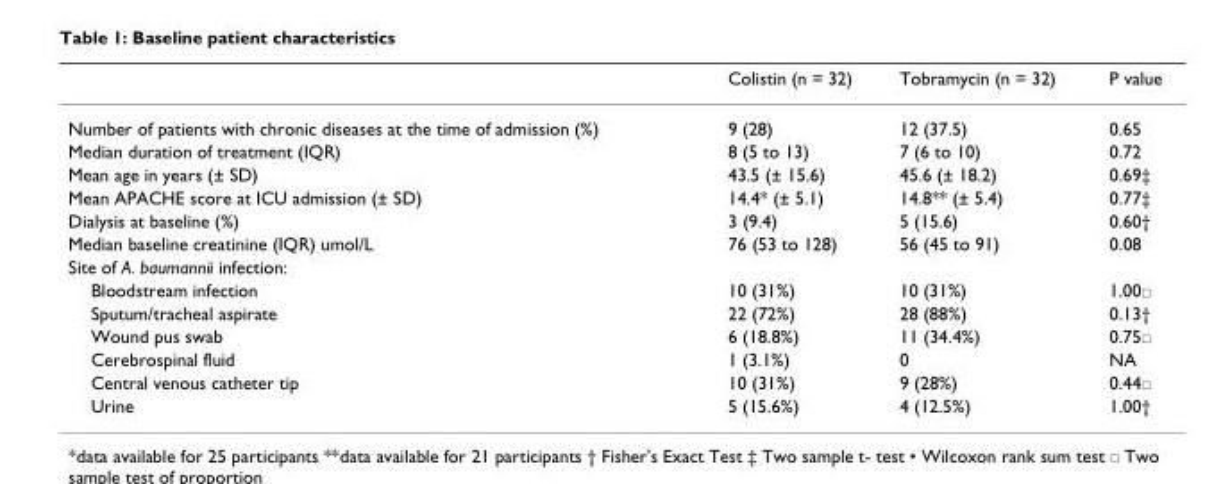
<table><thead><tr><td></td><td>Colistin (n = 32)</td><td>Tobramycin (n = 32)</td><td>P value</td></tr></thead><tbody><tr><td>Number of patients with chronic diseases at the time of admission (%)</td><td>9 (28)</td><td>12 (37.5)</td><td>0.65</td></tr><tr><td>Median duration of treatment (IQR)</td><td>8 (5 to 13)</td><td>7 (6 to 10)</td><td>0.72</td></tr><tr><td>Mean age in years (± SD)</td><td>43.5 (± 15.6)</td><td>45.6 (± 18.2)</td><td>0.69‡</td></tr><tr><td>Mean APACHE score at ICU admission (± SD)</td><td>14.4* (± 5.1)</td><td>14.8** (± 5.4)</td><td>0.77‡</td></tr><tr><td>Dialysis at baseline (%)</td><td>3 (9.4)</td><td>5 (15.6)</td><td>0.60†</td></tr><tr><td>Median baseline creatinine (IQR) umol/L</td><td>76 (53 to 128)</td><td>56 (45 to 91)</td><td>0.08</td></tr><tr><td colspan="4">Site of A. baumannii infection:</td></tr><tr><td>Bloodstream infection</td><td>10 (31%)</td><td>10 (31%)</td><td>1.00▫</td></tr><tr><td>Sputum/tracheal aspirate</td><td>22 (72%)</td><td>28 (88%)</td><td>0.13†</td></tr><tr><td>Wound pus swab</td><td>6 (18.8%)</td><td>11 (34.4%)</td><td>0.75▫</td></tr><tr><td>Cerebrospinal fluid</td><td>1 (3.1%)</td><td>0</td><td>NA</td></tr><tr><td>Central venous catheter tip</td><td>10 (31%)</td><td>9 (28%)</td><td>0.44▫</td></tr><tr><td>Urine</td><td>5 (15.6%)</td><td>4 (12.5%)</td><td>1.00†</td></tr></tbody></table>